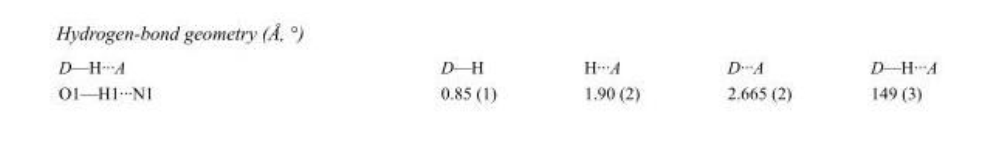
<table><tbody><tr><td>D—H···A</td><td>D—H</td><td>H···A</td><td>D···A</td><td>D—H···A</td></tr><tr><td>O1—H1···N1</td><td>0.85 (1)</td><td>1.90 (2)</td><td>2.665 (2)</td><td>149 (3)</td></tr></tbody></table>